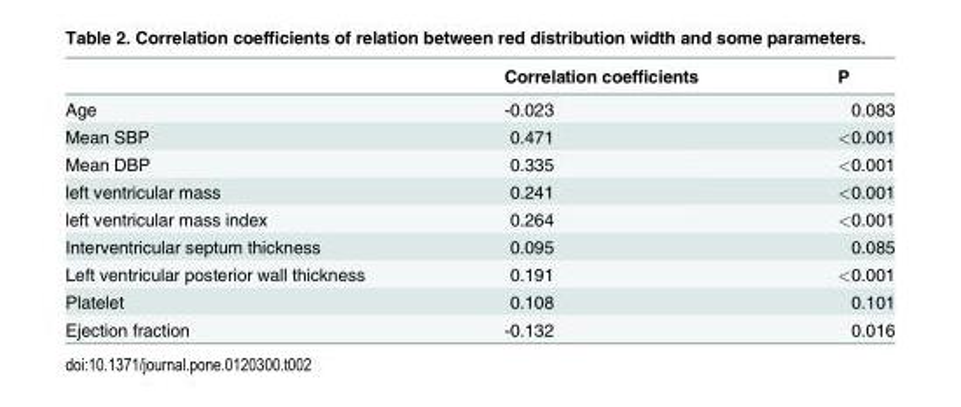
<table><thead><tr><td></td><td>Correlation coefficients</td><td>P</td></tr></thead><tbody><tr><td>Age</td><td>-0.023</td><td>0.083</td></tr><tr><td>Mean SBP</td><td>0.471</td><td>&lt;0.001</td></tr><tr><td>Mean DBP</td><td>0.335</td><td>&lt;0.001</td></tr><tr><td>left ventricular mass</td><td>0.241</td><td>&lt;0.001</td></tr><tr><td>left ventricular mass index</td><td>0.264</td><td>&lt;0.001</td></tr><tr><td>Interventricular septum thickness</td><td>0.095</td><td>0.085</td></tr><tr><td>Left ventricular posterior wall thickness</td><td>0.191</td><td>&lt;0.001</td></tr><tr><td>Platelet</td><td>0.108</td><td>0.101</td></tr><tr><td>Ejection fraction</td><td>-0.132</td><td>0.016</td></tr></tbody></table>